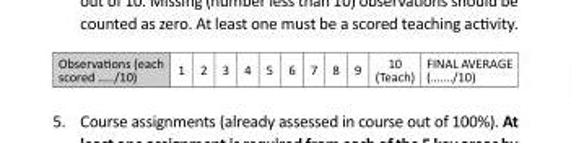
<table><tbody><tr><td>Observations (each scored …../10)</td><td>1</td><td>2</td><td>3</td><td>4</td><td>5</td><td>6</td><td>7</td><td>8</td><td>9</td><td>10 (Teach)</td><td>FINAL AVERAGE (……./10)</td></tr></tbody></table>